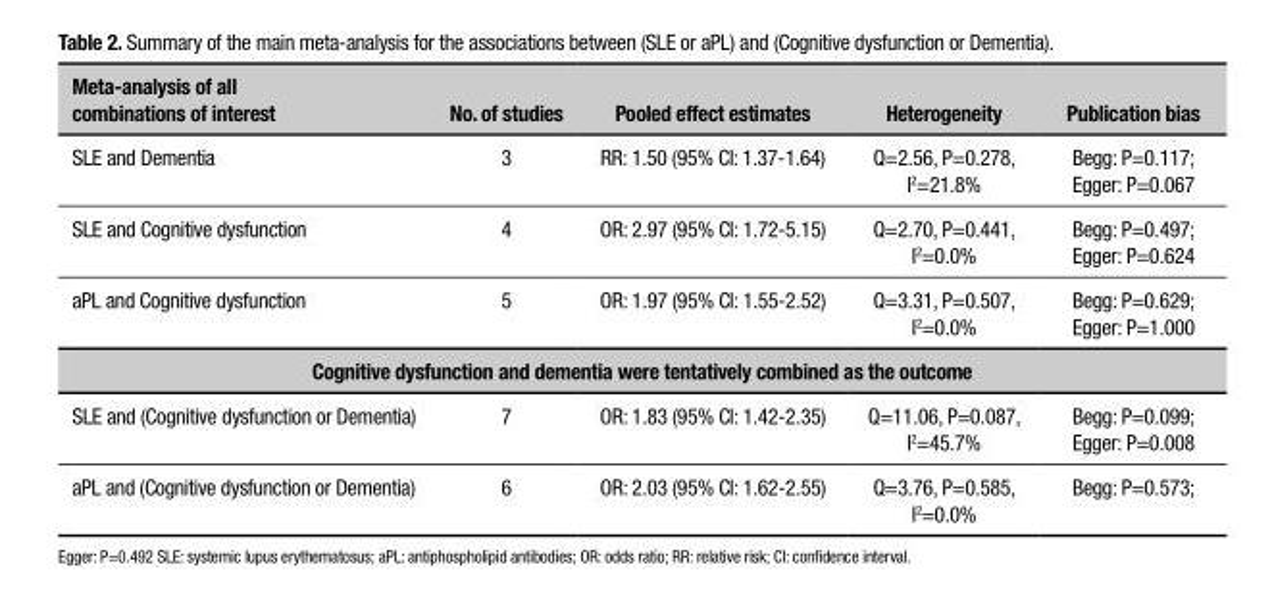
<table><thead><tr><td>Meta-analysis of all combinations of interest</td><td>No. of studies</td><td>Pooled effect estimates</td><td>Heterogeneity</td><td>Publication bias</td></tr></thead><tbody><tr><td>SLE and Dementia</td><td>3</td><td>RR: 1.50 (95% CI: 1.37-1.64)</td><td>Q=2.56, P=0.278, I<sup>2</sup>=21.8%</td><td>Begg: P=0.117; Egger: P=0.067</td></tr><tr><td>SLE and Cognitive dysfunction</td><td>4</td><td>OR: 2.97 (95% CI: 1.72-5.15)</td><td>Q=2.70, P=0.441, I<sup>2</sup>=0.0%</td><td>Begg: P=0.497; Egger: P=0.624</td></tr><tr><td>aPL and Cognitive dysfunction</td><td>5</td><td>OR: 1.97 (95% CI: 1.55-2.52)</td><td>Q=3.31, P=0.507, I<sup>2</sup>=0.0%</td><td>Begg: P=0.629; Egger: P=1.000</td></tr><tr><td colspan="5">Cognitive dysfunction and dementia were tentatively combined as the outcome</td></tr><tr><td>SLE and (Cognitive dysfunction or Dementia)</td><td>7</td><td>OR: 1.83 (95% CI: 1.42-2.35)</td><td>Q=11.06, P=0.087, I<sup>2</sup>=45.7%</td><td>Begg: P=0.099; Egger: P=0.008</td></tr><tr><td>aPL and (Cognitive dysfunction or Dementia)</td><td>6</td><td>OR: 2.03 (95% CI: 1.62-2.55)</td><td>Q=3.76, P=0.585, I<sup>2</sup>=0.0%</td><td>Begg: P=0.573;</td></tr></tbody></table>